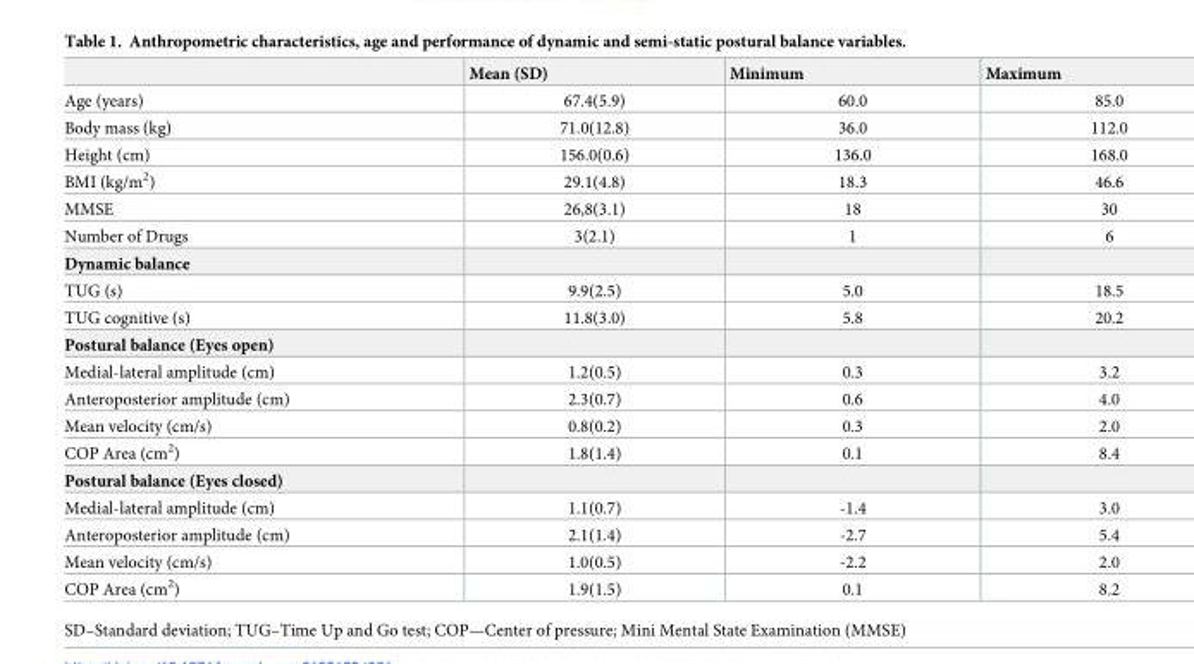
<table><thead><tr><td></td><td>Mean (SD)</td><td>Minimum</td><td>Maximum</td></tr></thead><tbody><tr><td>Age (years)</td><td>67.4(5.9)</td><td>60.0</td><td>85.0</td></tr><tr><td>Body mass (kg)</td><td>71.0(12.8)</td><td>36.0</td><td>112.0</td></tr><tr><td>Height (cm)</td><td>156.0(0.6)</td><td>136.0</td><td>168.0</td></tr><tr><td>BMI (kg/m<sup>2</sup>)</td><td>29.1(4.8)</td><td>18.3</td><td>46.6</td></tr><tr><td>MMSE</td><td>26,8(3.1)</td><td>18</td><td>30</td></tr><tr><td>Number of Drugs</td><td>3(2.1)</td><td>1</td><td>6</td></tr><tr><td colspan="4">Dynamic balance</td></tr><tr><td>TUG (s)</td><td>9.9(2.5)</td><td>5.0</td><td>18.5</td></tr><tr><td>TUG cognitive (s)</td><td>11.8(3.0)</td><td>5.8</td><td>20.2</td></tr><tr><td colspan="4">Postural balance (Eyes open)</td></tr><tr><td>Medial-lateral amplitude (cm)</td><td>1.2(0.5)</td><td>0.3</td><td>3.2</td></tr><tr><td>Anteroposterior amplitude (cm)</td><td>2.3(0.7)</td><td>0.6</td><td>4.0</td></tr><tr><td>Mean velocity (cm/s)</td><td>0.8(0.2)</td><td>0.3</td><td>2.0</td></tr><tr><td>COP Area (cm<sup>2</sup>)</td><td>1.8(1.4)</td><td>0.1</td><td>8.4</td></tr><tr><td colspan="4">Postural balance (Eyes closed)</td></tr><tr><td>Medial-lateral amplitude (cm)</td><td>1.1(0.7)</td><td>-1.4</td><td>3.0</td></tr><tr><td>Anteroposterior amplitude (cm)</td><td>2.1(1.4)</td><td>-2.7</td><td>5.4</td></tr><tr><td>Mean velocity (cm/s)</td><td>1.0(0.5)</td><td>-2.2</td><td>2.0</td></tr><tr><td>COP Area (cm<sup>2</sup>)</td><td>1.9(1.5)</td><td>0.1</td><td>8.2</td></tr></tbody></table>